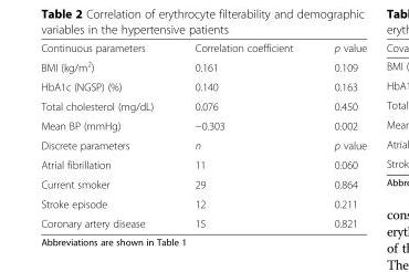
<table><tbody><tr><td>Continuous parameters</td><td>Correlation coefficient</td><td>p value</td></tr><tr><td>BMI (kg/m<sup>2</sup>)</td><td>0.161</td><td>0.109</td></tr><tr><td>HbA1c (NGSP) (%)</td><td>0.140</td><td>0.163</td></tr><tr><td>Total cholesterol (mg/dL)</td><td>0.076</td><td>0.450</td></tr><tr><td>Mean BP (mmHg)</td><td>−0.303</td><td>0.002</td></tr><tr><td>Discrete parameters</td><td>n</td><td>p value</td></tr><tr><td>Atrial fibrillation</td><td>11</td><td>0.060</td></tr><tr><td>Current smoker</td><td>29</td><td>0.864</td></tr><tr><td>Stroke episode</td><td>12</td><td>0.211</td></tr><tr><td>Coronary artery disease</td><td>15</td><td>0.821</td></tr></tbody></table>